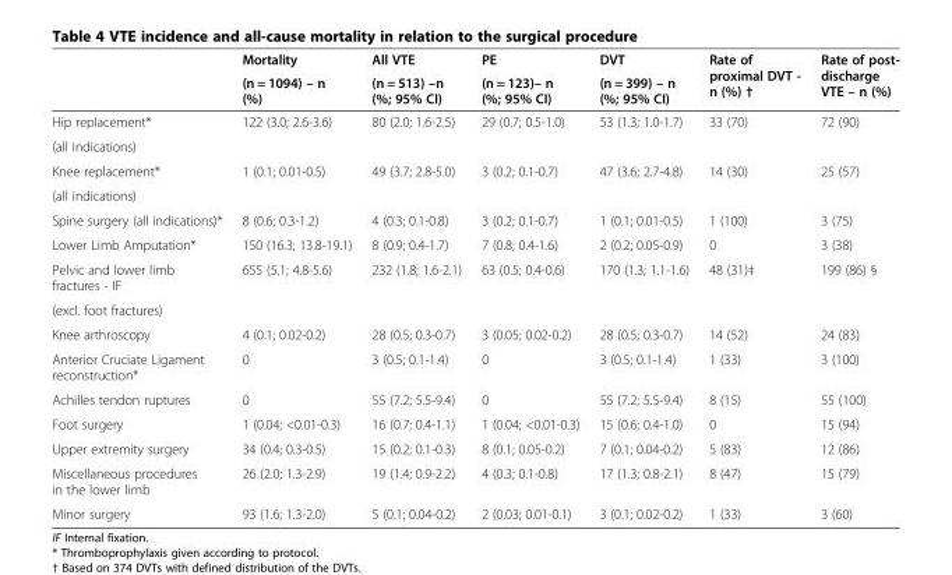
<table><thead><tr><td rowspan="2"></td><td rowspan="2">Mortality (n = 1094) – n (%)</td><td rowspan="2">All VTE (n = 513) –n (%; 95% CI)</td><td rowspan="2">PE (n = 123)– n (%; 95% CI)</td><td rowspan="2">DVT (n = 399) – n (%; 95% CI)</td><td rowspan="2">Rate of proximal DVT - n (%) †</td><td rowspan="2">Rate of post- discharge VTE – n (%)</td></tr><tr></tr></thead><tbody><tr><td>Hip replacement*</td><td rowspan="2">122 (3.0; 2.6-3.6)</td><td rowspan="2">80 (2.0; 1.6-2.5)</td><td rowspan="2">29 (0.7; 0.5-1.0)</td><td rowspan="2">53 (1.3; 1.0-1.7)</td><td rowspan="2">33 (70)</td><td rowspan="2">72 (90)</td></tr><tr><td>(all indications)</td></tr><tr><td>Knee replacement*</td><td rowspan="2">1 (0.1; 0.01-0.5)</td><td rowspan="2">49 (3.7; 2.8-5.0)</td><td rowspan="2">3 (0.2; 0.1-0.7)</td><td rowspan="2">47 (3.6; 2.7-4.8)</td><td rowspan="2">14 (30)</td><td rowspan="2">25 (57)</td></tr><tr><td>(all indications)</td></tr><tr><td>Spine surgery (all indications)*</td><td>8 (0.6; 0.3-1.2)</td><td>4 (0.3; 0.1-0.8)</td><td>3 (0.2; 0.1-0.7)</td><td>1 (0.1; 0.01-0.5)</td><td>1 (100)</td><td>3 (75)</td></tr><tr><td>Lower Limb Amputation*</td><td>150 (16.3; 13.8-19.1)</td><td>8 (0.9; 0.4-1.7)</td><td>7 (0.8; 0.4-1.6)</td><td>2 (0.2; 0.05-0.9)</td><td>0</td><td>3 (38)</td></tr><tr><td>Pelvic and lower limb fractures - IF</td><td rowspan="2">655 (5.1; 4.8-5.6)</td><td rowspan="2">232 (1.8; 1.6-2.1)</td><td rowspan="2">63 (0.5; 0.4-0.6)</td><td rowspan="2">170 (1.3; 1.1-1.6)</td><td rowspan="2">48 (31)‡</td><td rowspan="2">199 (86) §</td></tr><tr><td>(excl. foot fractures)</td></tr><tr><td>Knee arthroscopy</td><td>4 (0.1; 0.02-0.2)</td><td>28 (0.5; 0.3-0.7)</td><td>3 (0.05; 0.02-0.2)</td><td>28 (0.5; 0.3-0.7)</td><td>14 (52)</td><td>24 (83)</td></tr><tr><td>Anterior Cruciate Ligament reconstruction*</td><td>0</td><td>3 (0.5; 0.1-1.4)</td><td>0</td><td>3 (0.5; 0.1-1.4)</td><td>1 (33)</td><td>3 (100)</td></tr><tr><td>Achilles tendon ruptures</td><td>0</td><td>55 (7.2; 5.5-9.4)</td><td>0</td><td>55 (7.2; 5.5-9.4)</td><td>8 (15)</td><td>55 (100)</td></tr><tr><td>Foot surgery</td><td>1 (0.04; &lt;0.01-0.3)</td><td>16 (0.7; 0.4-1.1)</td><td>1 (0.04; &lt;0.01-0.3)</td><td>15 (0.6; 0.4-1.0)</td><td>0</td><td>15 (94)</td></tr><tr><td>Upper extremity surgery</td><td>34 (0.4; 0.3-0.5)</td><td>15 (0.2; 0.1-0.3)</td><td>8 (0.1; 0.05-0.2)</td><td>7 (0.1; 0.04-0.2)</td><td>5 (83)</td><td>12 (86)</td></tr><tr><td>Miscellaneous procedures in the lower limb</td><td>26 (2.0; 1.3-2.9)</td><td>19 (1.4; 0.9-2.2)</td><td>4 (0.3; 0.1-0.8)</td><td>17 (1.3; 0.8-2.1)</td><td>8 (47)</td><td>15 (79)</td></tr><tr><td>Minor surgery</td><td>93 (1.6; 1.3-2.0)</td><td>5 (0.1; 0.04-0.2)</td><td>2 (0.03; 0.01-0.1)</td><td>3 (0.1; 0.02-0.2)</td><td>1 (33)</td><td>3 (60)</td></tr></tbody></table>